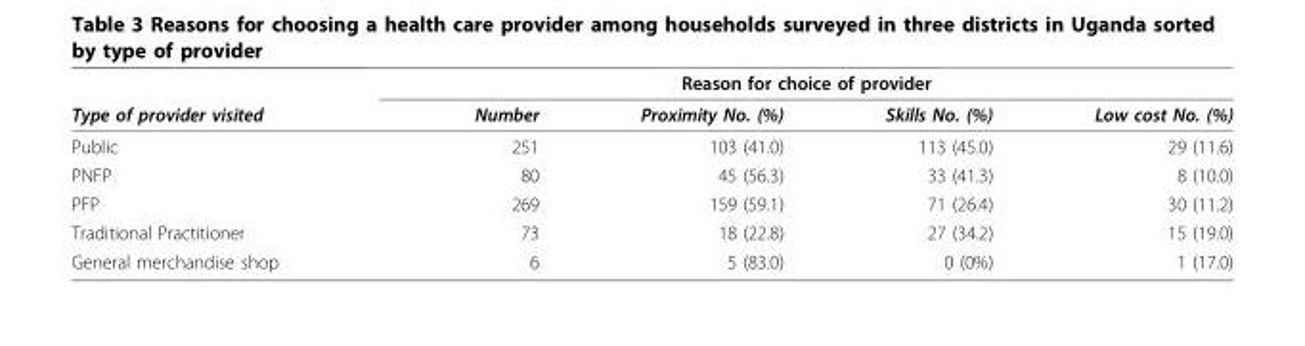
<table><thead><tr><td rowspan="2">Type of provider visited</td><td colspan="4">Reason for choice of provider</td></tr><tr><td>Number</td><td>Proximity No. (%)</td><td>Skills No. (%)</td><td>Low cost No. (%)</td></tr></thead><tbody><tr><td>Public</td><td>251</td><td>103 (41.0)</td><td>113 (45.0)</td><td>29 (11.6)</td></tr><tr><td>PNFP</td><td>80</td><td>45 (56.3)</td><td>33 (41.3)</td><td>8 (10.0)</td></tr><tr><td>PFP</td><td>269</td><td>159 (59.1)</td><td>71 (26.4)</td><td>30 (11.2)</td></tr><tr><td>Traditional Practitioner</td><td>73</td><td>18 (22.8)</td><td>27 (34.2)</td><td>15 (19.0)</td></tr><tr><td>General merchandise shop</td><td>6</td><td>5 (83.0)</td><td>0 (0%)</td><td>1 (17.0)</td></tr></tbody></table>